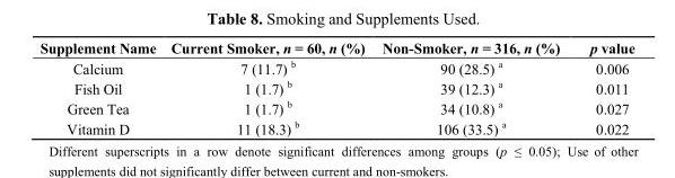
<table><thead><tr><td>Supplement Name</td><td>Current Smoker, n = 60, n (%)</td><td>Non-Smoker, n = 316, n (%)</td><td>p value</td></tr></thead><tbody><tr><td>Calcium</td><td>7 (11.7) <sup>b</sup></td><td>90 (28.5) <sup>a</sup></td><td>0.006</td></tr><tr><td>Fish Oil</td><td>1 (1.7) <sup>b</sup></td><td>39 (12.3) <sup>a</sup></td><td>0.011</td></tr><tr><td>Green Tea</td><td>1 (1.7) <sup>b</sup></td><td>34 (10.8) <sup>a</sup></td><td>0.027</td></tr><tr><td>Vitamin D</td><td>11 (18.3) <sup>b</sup></td><td>106 (33.5) <sup>a</sup></td><td>0.022</td></tr></tbody></table>